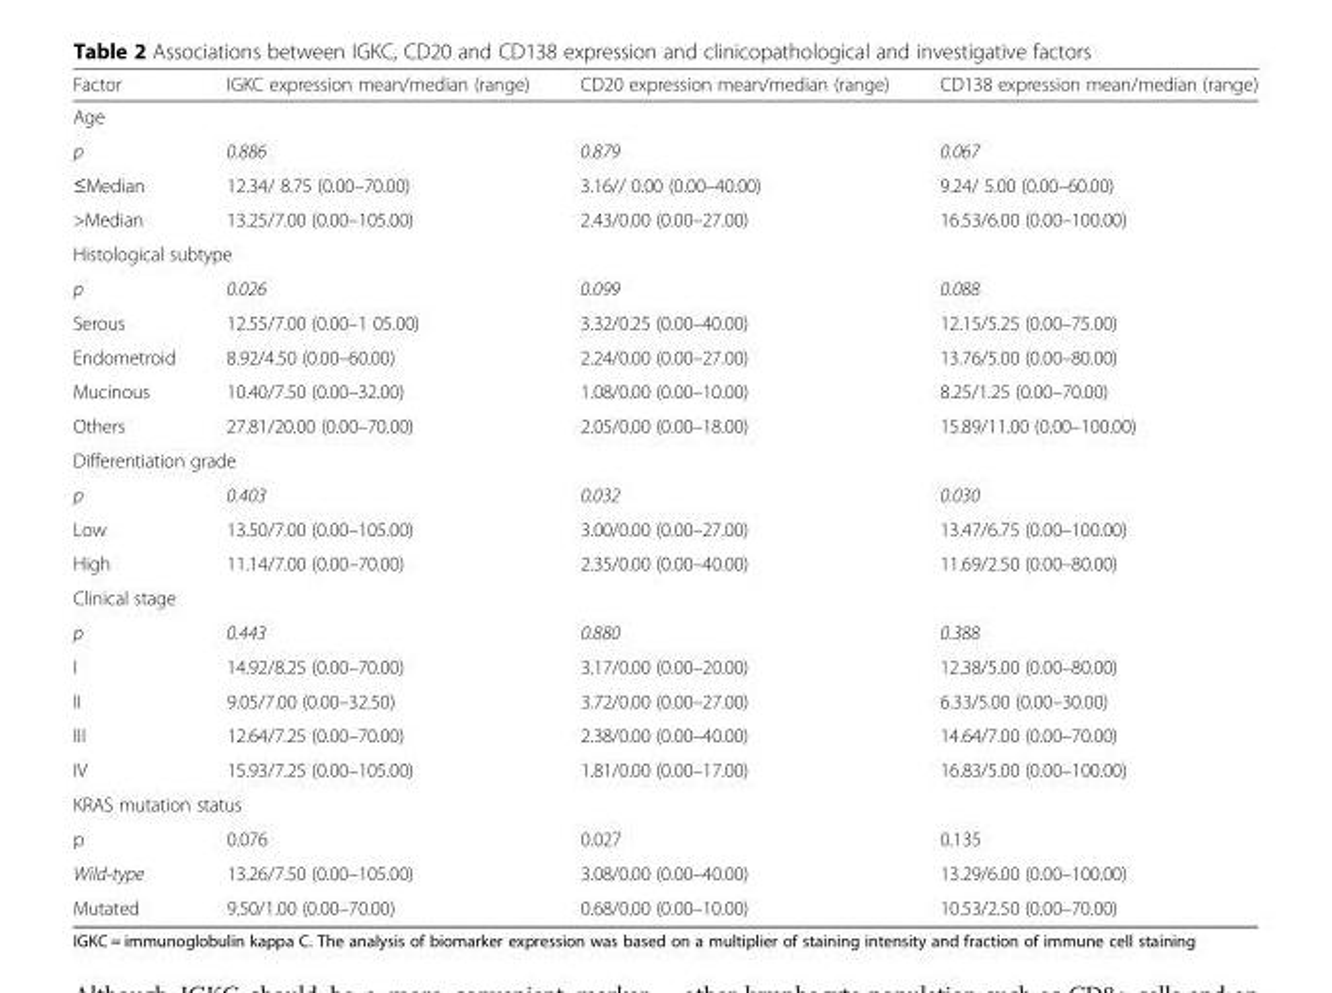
<table><thead><tr><td>Factor</td><td>IGKC expression mean/median (range)</td><td>CD20 expression mean/median (range)</td><td>CD138 expression mean/median (range)</td></tr></thead><tbody><tr><td colspan="4">Age</td></tr><tr><td>p</td><td>0.886</td><td>0.879</td><td>0.067</td></tr><tr><td>≤Median</td><td>12.34/ 8.75 (0.00–70.00)</td><td>3.16// 0.00 (0.00–40.00)</td><td>9.24/ 5.00 (0.00–60.00)</td></tr><tr><td>&gt;Median</td><td>13.25/7.00 (0.00–105.00)</td><td>2.43/0.00 (0.00–27.00)</td><td>16.53/6.00 (0.00–100.00)</td></tr><tr><td colspan="4">Histological subtype</td></tr><tr><td>p</td><td>0.026</td><td>0.099</td><td>0.088</td></tr><tr><td>Serous</td><td>12.55/7.00 (0.00–1 05.00)</td><td>3.32/0.25 (0.00–40.00)</td><td>12.15/5.25 (0.00–75.00)</td></tr><tr><td>Endometroid</td><td>8.92/4.50 (0.00–60.00)</td><td>2.24/0.00 (0.00–27.00)</td><td>13.76/5.00 (0.00–80.00)</td></tr><tr><td>Mucinous</td><td>10.40/7.50 (0.00–32.00)</td><td>1.08/0.00 (0.00–10.00)</td><td>8.25/1.25 (0.00–70.00)</td></tr><tr><td>Others</td><td>27.81/20.00 (0.00–70.00)</td><td>2.05/0.00 (0.00–18.00)</td><td>15.89/11.00 (0.00–100.00)</td></tr><tr><td colspan="4">Differentiation grade</td></tr><tr><td>p</td><td>0.403</td><td>0.032</td><td>0.030</td></tr><tr><td>Low</td><td>13.50/7.00 (0.00–105.00)</td><td>3.00/0.00 (0.00–27.00)</td><td>13.47/6.75 (0.00–100.00)</td></tr><tr><td>High</td><td>11.14/7.00 (0.00–70.00)</td><td>2.35/0.00 (0.00–40.00)</td><td>11.69/2.50 (0.00–80.00)</td></tr><tr><td colspan="4">Clinical stage</td></tr><tr><td>p</td><td>0.443</td><td>0.880</td><td>0.388</td></tr><tr><td>I</td><td>14.92/8.25 (0.00–70.00)</td><td>3.17/0.00 (0.00–20.00)</td><td>12.38/5.00 (0.00–80.00)</td></tr><tr><td>II</td><td>9.05/7.00 (0.00–32.50)</td><td>3.72/0.00 (0.00–27.00)</td><td>6.33/5.00 (0.00–30.00)</td></tr><tr><td>III</td><td>12.64/7.25 (0.00–70.00)</td><td>2.38/0.00 (0.00–40.00)</td><td>14.64/7.00 (0.00–70.00)</td></tr><tr><td>IV</td><td>15.93/7.25 (0.00–105.00)</td><td>1.81/0.00 (0.00–17.00)</td><td>16.83/5.00 (0.00–100.00)</td></tr><tr><td colspan="4">KRAS mutation status</td></tr><tr><td>p</td><td>0.076</td><td>0.027</td><td>0.135</td></tr><tr><td>Wild-type</td><td>13.26/7.50 (0.00–105.00)</td><td>3.08/0.00 (0.00–40.00)</td><td>13.29/6.00 (0.00–100.00)</td></tr><tr><td>Mutated</td><td>9.50/1.00 (0.00–70.00)</td><td>0.68/0.00 (0.00–10.00)</td><td>10.53/2.50 (0.00–70.00)</td></tr></tbody></table>